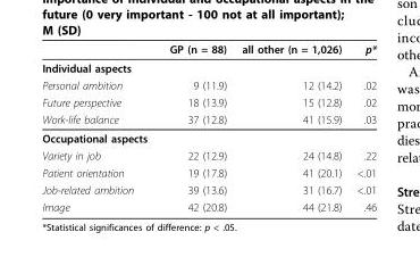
<table><thead><tr><td></td><td>GP (n = 88)</td><td>all other (n = 1,026)</td><td>p*</td></tr></thead><tbody><tr><td colspan="4">Individual aspects</td></tr><tr><td>Personal ambition</td><td>9 (11.9)</td><td>12 (14.2)</td><td>.02</td></tr><tr><td>Future perspective</td><td>18 (13.9)</td><td>15 (12.8)</td><td>.02</td></tr><tr><td>Work-life balance</td><td>37 (12.8)</td><td>41 (15.9)</td><td>.03</td></tr><tr><td colspan="4">Occupational aspects</td></tr><tr><td>Variety in job</td><td>22 (12.9)</td><td>24 (14.8)</td><td>.22</td></tr><tr><td>Patient orientation</td><td>19 (17.8)</td><td>41 (20.1)</td><td>&lt;.01</td></tr><tr><td>Job-related ambition</td><td>39 (13.6)</td><td>31 (16.7)</td><td>&lt;.01</td></tr><tr><td>Image</td><td>42 (20.8)</td><td>44 (21.8)</td><td>.46</td></tr></tbody></table>